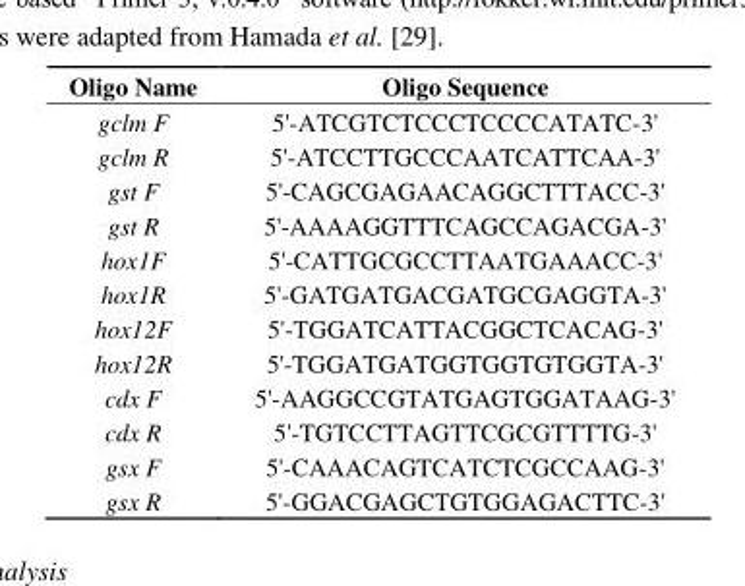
<table><thead><tr><td>Oligo Name</td><td>Oligo Sequence</td></tr></thead><tbody><tr><td>gclm F</td><td>5&#x27;-ATCGTCTCCCTCCCCATATC-3&#x27;</td></tr><tr><td>gclm R</td><td>5&#x27;-ATCCTTGCCCAATCATTCAA-3&#x27;</td></tr><tr><td>gst F</td><td>5&#x27;-CAGCGAGAACAGGCTTTACC-3&#x27;</td></tr><tr><td>gst R</td><td>5&#x27;-AAAAGGTTTCAGCCAGACGA-3&#x27;</td></tr><tr><td>hox1F</td><td>5&#x27;-CATTGCGCCTTAATGAAACC-3&#x27;</td></tr><tr><td>hox1R</td><td>5&#x27;-GATGATGACGATGCGAGGTA-3&#x27;</td></tr><tr><td>hox12F</td><td>5&#x27;-TGGATCATTACGGCTCACAG-3&#x27;</td></tr><tr><td>hox12R</td><td>5&#x27;-TGGATGATGGTGGTGTGGTA-3&#x27;</td></tr><tr><td>cdx F</td><td>5&#x27;-AAGGCCGTATGAGTGGATAAG-3&#x27;</td></tr><tr><td>cdx R</td><td>5&#x27;-TGTCCTTAGTTCGCGTTTTG-3&#x27;</td></tr><tr><td>gsx F</td><td>5&#x27;-CAAACAGTCATCTCGCCAAG-3&#x27;</td></tr><tr><td>gsx R</td><td>5&#x27;-GGACGAGCTGTGGAGACTTC-3&#x27;</td></tr></tbody></table>